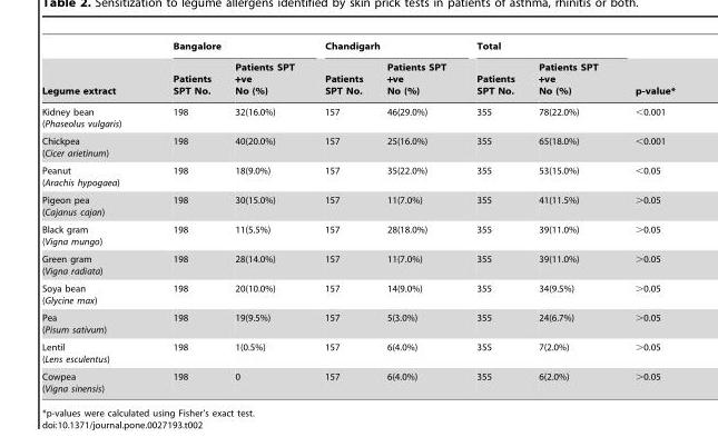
<table><thead><tr><td rowspan="2">Legume extract</td><td colspan="2">Bangalore</td><td colspan="2">Chandigarh</td><td colspan="2">Total</td><td rowspan="2">p-value*</td></tr><tr><td>Patients SPT No.</td><td>Patients SPT +ve No (%)</td><td>Patients SPT No.</td><td>Patients SPT +ve No (%)</td><td>Patients SPT No.</td><td>Patients SPT +ve No (%)</td></tr></thead><tbody><tr><td>Kidney bean (Phaseolus vulgaris)</td><td>198</td><td>32(16.0%)</td><td>157</td><td>46(29.0%)</td><td>355</td><td>78(22.0%)</td><td>&lt;0.001</td></tr><tr><td>Chickpea (Cicer arietinum)</td><td>198</td><td>40(20.0%)</td><td>157</td><td>25(16.0%)</td><td>355</td><td>65(18.0%)</td><td>&lt;0.001</td></tr><tr><td>Peanut (Arachis hypogaea)</td><td>198</td><td>18(9.0%)</td><td>157</td><td>35(22.0%)</td><td>355</td><td>53(15.0%)</td><td>&lt;0.05</td></tr><tr><td>Pigeon pea (Cajanus cajan)</td><td>198</td><td>30(15.0%)</td><td>157</td><td>11(7.0%)</td><td>355</td><td>41(11.5%)</td><td>&gt;0.05</td></tr><tr><td>Black gram (Vigna mungo)</td><td>198</td><td>11(5.5%)</td><td>157</td><td>28(18.0%)</td><td>355</td><td>39(11.0%)</td><td>&gt;0.05</td></tr><tr><td>Green gram (Vigna radiata)</td><td>198</td><td>28(14.0%)</td><td>157</td><td>11(7.0%)</td><td>355</td><td>39(11.0%)</td><td>&gt;0.05</td></tr><tr><td>Soya bean (Glycine max)</td><td>198</td><td>20(10.0%)</td><td>157</td><td>14(9.0%)</td><td>355</td><td>34(9.5%)</td><td>&gt;0.05</td></tr><tr><td>Pea (Pisum sativum)</td><td>198</td><td>19(9.5%)</td><td>157</td><td>5(3.0%)</td><td>355</td><td>24(6.7%)</td><td>&gt;0.05</td></tr><tr><td>Lentil (Lens esculentus)</td><td>198</td><td>1(0.5%)</td><td>157</td><td>6(4.0%)</td><td>355</td><td>7(2.0%)</td><td>&gt;0.05</td></tr><tr><td>Cowpea (Vigna sinensis)</td><td>198</td><td>0</td><td>157</td><td>6(4.0%)</td><td>355</td><td>6(2.0%)</td><td>&gt;0.05</td></tr></tbody></table>